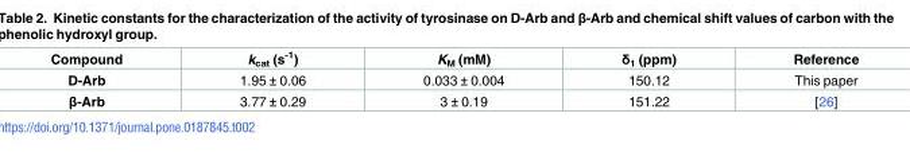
<table><thead><tr><td>Compound</td><td>k<sub>cat</sub> (s<sup>-1</sup>)</td><td>K<sub>M</sub> (mM)</td><td>δ<sub>1</sub> (ppm)</td><td>Reference</td></tr></thead><tbody><tr><td>D-Arb</td><td>1.95 ± 0.06</td><td>0.033 ± 0.004</td><td>150.12</td><td>This paper</td></tr><tr><td>β-Arb</td><td>3.77 ± 0.29</td><td>3 ± 0.19</td><td>151.22</td><td>[26]</td></tr></tbody></table>